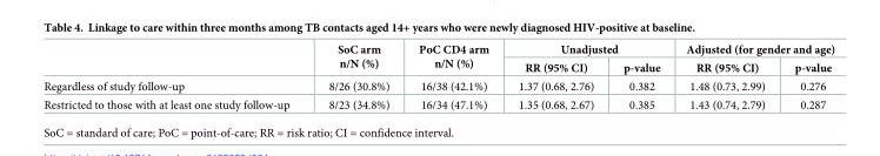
<table><thead><tr><td rowspan="2"></td><td rowspan="2">SoC arm n/N (%)</td><td rowspan="2">PoC CD4 arm n/N (%)</td><td colspan="2">Unadjusted</td><td colspan="2">Adjusted (for gender and age)</td></tr><tr><td>RR (95% CI)</td><td>p-value</td><td>RR (95% CI)</td><td>p-value</td></tr></thead><tbody><tr><td>Regardless of study follow-up</td><td>8/26 (30.8%)</td><td>16/38 (42.1%)</td><td>1.37 (0.68, 2.76)</td><td>0.382</td><td>1.48 (0.73, 2.99)</td><td>0.276</td></tr><tr><td>Restricted to those with at least one study follow-up</td><td>8/23 (34.8%)</td><td>16/34 (47.1%)</td><td>1.35 (0.68, 2.67)</td><td>0.385</td><td>1.43 (0.74, 2.79)</td><td>0.287</td></tr></tbody></table>